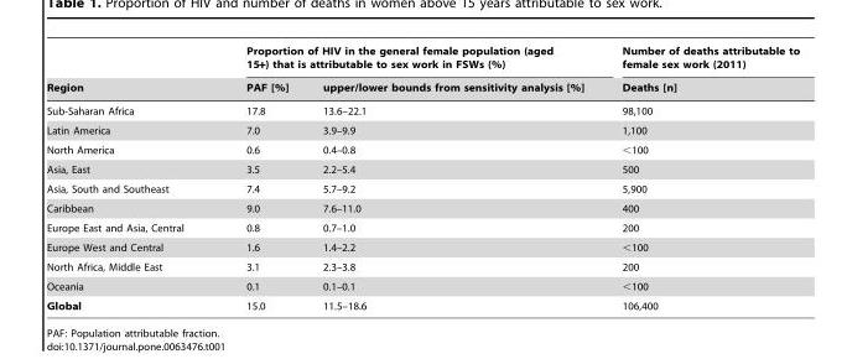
<table><thead><tr><td rowspan="2">Region</td><td colspan="2">Proportion of HIV in the general female population (aged 15+) that is attributable to sex work in FSWs (%)</td><td rowspan="2">Number of deaths attributable to female sex work (2011) Deaths [n]</td></tr><tr><td>PAF [%]</td><td>upper/lower bounds from sensitivity analysis [%]</td></tr></thead><tbody><tr><td>Sub-Saharan Africa</td><td>17.8</td><td>13.6–22.1</td><td>98,100</td></tr><tr><td>Latin America</td><td>7.0</td><td>3.9–9.9</td><td>1,100</td></tr><tr><td>North America</td><td>0.6</td><td>0.4–0.8</td><td>&lt;100</td></tr><tr><td>Asia, East</td><td>3.5</td><td>2.2–5.4</td><td>500</td></tr><tr><td>Asia, South and Southeast</td><td>7.4</td><td>5.7–9.2</td><td>5,900</td></tr><tr><td>Caribbean</td><td>9.0</td><td>7.6–11.0</td><td>400</td></tr><tr><td>Europe East and Asia, Central</td><td>0.8</td><td>0.7–1.0</td><td>200</td></tr><tr><td>Europe West and Central</td><td>1.6</td><td>1.4–2.2</td><td>&lt;100</td></tr><tr><td>North Africa, Middle East</td><td>3.1</td><td>2.3–3.8</td><td>200</td></tr><tr><td>Oceania</td><td>0.1</td><td>0.1–0.1</td><td>&lt;100</td></tr><tr><td>Global</td><td>15.0</td><td>11.5–18.6</td><td>106,400</td></tr></tbody></table>